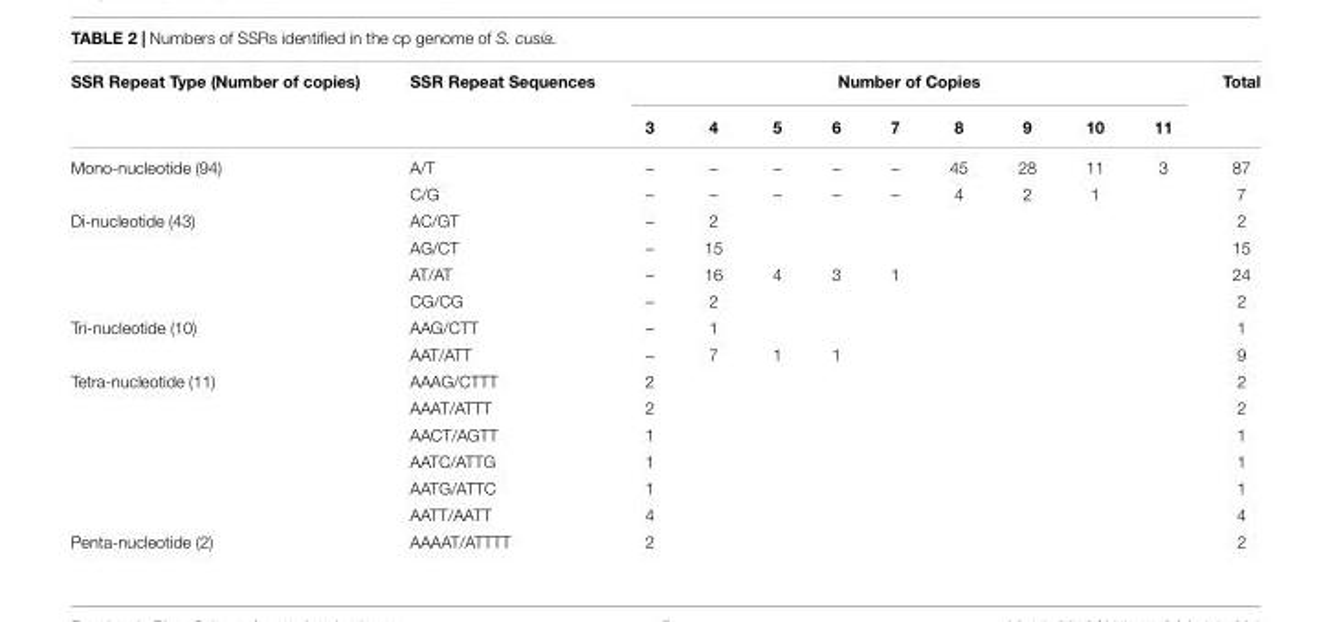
<table><thead><tr><td rowspan="2">SSR Repeat Type (Number of copies)</td><td rowspan="2">SSR Repeat Sequences</td><td colspan="9">Number of Copies</td><td rowspan="2">Total</td></tr><tr><td>3</td><td>4</td><td>5</td><td>6</td><td>7</td><td>8</td><td>9</td><td>10</td><td>11</td></tr></thead><tbody><tr><td rowspan="2">Mono-nucleotide (94)</td><td>A/T</td><td>–</td><td>–</td><td>–</td><td>–</td><td>–</td><td>45</td><td>28</td><td>11</td><td>3</td><td>87</td></tr><tr><td>C/G</td><td>–</td><td>–</td><td>–</td><td>–</td><td>–</td><td>4</td><td>2</td><td>1</td><td></td><td>7</td></tr><tr><td rowspan="4">Di-nucleotide (43)</td><td>AC/GT</td><td>–</td><td>2</td><td></td><td></td><td></td><td></td><td></td><td></td><td></td><td>2</td></tr><tr><td>AG/CT</td><td>–</td><td>15</td><td></td><td></td><td></td><td></td><td></td><td></td><td></td><td>15</td></tr><tr><td>AT/AT</td><td>–</td><td>16</td><td>4</td><td>3</td><td>1</td><td></td><td></td><td></td><td></td><td>24</td></tr><tr><td>CG/CG</td><td>–</td><td>2</td><td></td><td></td><td></td><td></td><td></td><td></td><td></td><td>2</td></tr><tr><td rowspan="2">Tri-nucleotide (10)</td><td>AAG/CTT</td><td>–</td><td>1</td><td></td><td></td><td></td><td></td><td></td><td></td><td></td><td>1</td></tr><tr><td>AAT/ATT</td><td>–</td><td>7</td><td>1</td><td>1</td><td></td><td></td><td></td><td></td><td></td><td>9</td></tr><tr><td rowspan="6">Tetra-nucleotide (11)</td><td>AAAG/CTTT</td><td>2</td><td></td><td></td><td></td><td></td><td></td><td></td><td></td><td></td><td>2</td></tr><tr><td>AAAT/ATTT</td><td>2</td><td></td><td></td><td></td><td></td><td></td><td></td><td></td><td></td><td>2</td></tr><tr><td>AACT/AGTT</td><td>1</td><td></td><td></td><td></td><td></td><td></td><td></td><td></td><td></td><td>1</td></tr><tr><td>AATC/ATTG</td><td>1</td><td></td><td></td><td></td><td></td><td></td><td></td><td></td><td></td><td>1</td></tr><tr><td>AATG/ATTC</td><td>1</td><td></td><td></td><td></td><td></td><td></td><td></td><td></td><td></td><td>1</td></tr><tr><td>AATT/AATT</td><td>4</td><td></td><td></td><td></td><td></td><td></td><td></td><td></td><td></td><td>4</td></tr><tr><td>Penta-nucleotide (2)</td><td>AAAAT/ATTTT</td><td>2</td><td></td><td></td><td></td><td></td><td></td><td></td><td></td><td></td><td>2</td></tr></tbody></table>